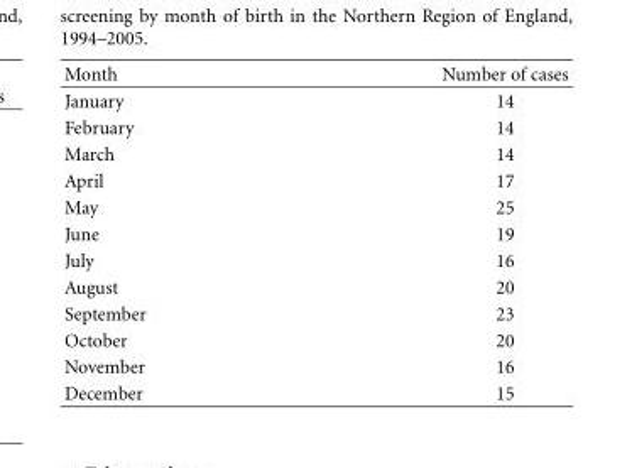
<table><thead><tr><td>Month</td><td>Number of cases</td></tr></thead><tbody><tr><td>January</td><td>14</td></tr><tr><td>February</td><td>14</td></tr><tr><td>March</td><td>14</td></tr><tr><td>April</td><td>17</td></tr><tr><td>May</td><td>25</td></tr><tr><td>June</td><td>19</td></tr><tr><td>July</td><td>16</td></tr><tr><td>August</td><td>20</td></tr><tr><td>September</td><td>23</td></tr><tr><td>October</td><td>20</td></tr><tr><td>November</td><td>16</td></tr><tr><td>December</td><td>15</td></tr></tbody></table>